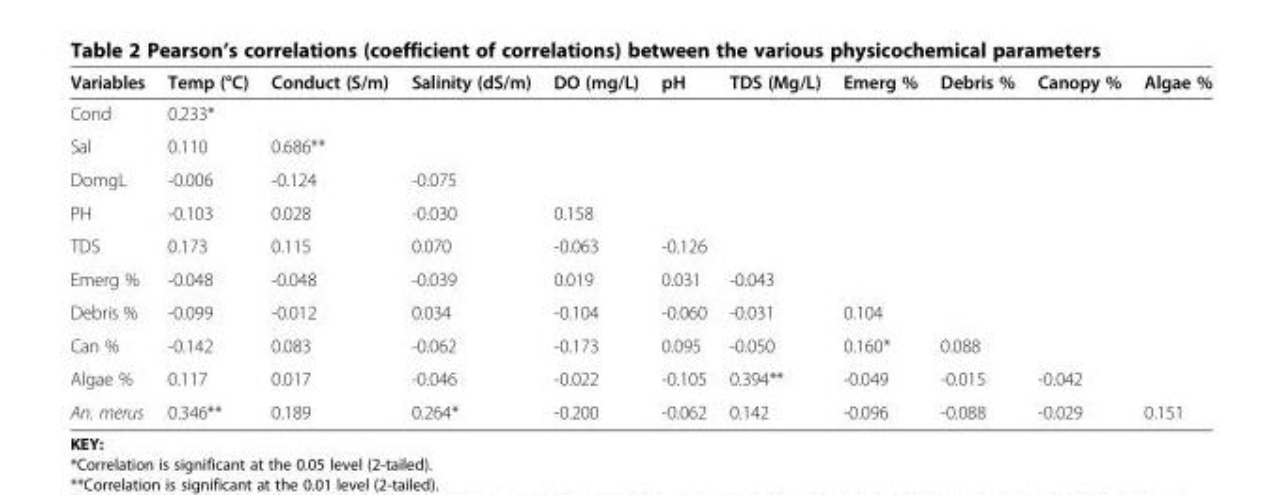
<table><thead><tr><td>Variables</td><td>Temp (°C)</td><td>Conduct (S/m)</td><td>Salinity (dS/m)</td><td>DO (mg/L)</td><td>pH</td><td>TDS (Mg/L)</td><td>Emerg %</td><td>Debris %</td><td>Canopy %</td><td>Algae %</td></tr></thead><tbody><tr><td>Cond</td><td>0.233*</td><td></td><td></td><td></td><td></td><td></td><td></td><td></td><td></td><td></td></tr><tr><td>Sal</td><td>0.110</td><td>0.686**</td><td></td><td></td><td></td><td></td><td></td><td></td><td></td><td></td></tr><tr><td>DomgL</td><td>-0.006</td><td>-0.124</td><td>-0.075</td><td></td><td></td><td></td><td></td><td></td><td></td><td></td></tr><tr><td>PH</td><td>-0.103</td><td>0.028</td><td>-0.030</td><td>0.158</td><td></td><td></td><td></td><td></td><td></td><td></td></tr><tr><td>TDS</td><td>0.173</td><td>0.115</td><td>0.070</td><td>-0.063</td><td>-0.126</td><td></td><td></td><td></td><td></td><td></td></tr><tr><td>Emerg %</td><td>-0.048</td><td>-0.048</td><td>-0.039</td><td>0.019</td><td>0.031</td><td>-0.043</td><td></td><td></td><td></td><td></td></tr><tr><td>Debris %</td><td>-0.099</td><td>-0.012</td><td>0.034</td><td>-0.104</td><td>-0.060</td><td>-0.031</td><td>0.104</td><td></td><td></td><td></td></tr><tr><td>Can %</td><td>-0.142</td><td>0.083</td><td>-0.062</td><td>-0.173</td><td>0.095</td><td>-0.050</td><td>0.160*</td><td>0.088</td><td></td><td></td></tr><tr><td>Algae %</td><td>0.117</td><td>0.017</td><td>-0.046</td><td>-0.022</td><td>-0.105</td><td>0.394**</td><td>-0.049</td><td>-0.015</td><td>-0.042</td><td></td></tr><tr><td>An. merus</td><td>0.346**</td><td>0.189</td><td>0.264*</td><td>-0.200</td><td>-0.062</td><td>0.142</td><td>-0.096</td><td>-0.088</td><td>-0.029</td><td>0.151</td></tr></tbody></table>